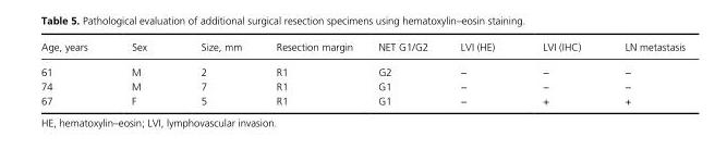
<table><thead><tr><td>Age, years</td><td>Sex</td><td>Size, mm</td><td>Resection margin</td><td>NET G1/G2</td><td>LVI (HE)</td><td>LVI (IHC)</td><td>LN metastasis</td></tr></thead><tbody><tr><td>61</td><td>M</td><td>2</td><td>R1</td><td>G2</td><td>−</td><td>−</td><td>−</td></tr><tr><td>74</td><td>M</td><td>7</td><td>R1</td><td>G1</td><td>−</td><td>−</td><td>−</td></tr><tr><td>67</td><td>F</td><td>5</td><td>R1</td><td>G1</td><td>−</td><td>+</td><td>+</td></tr></tbody></table>